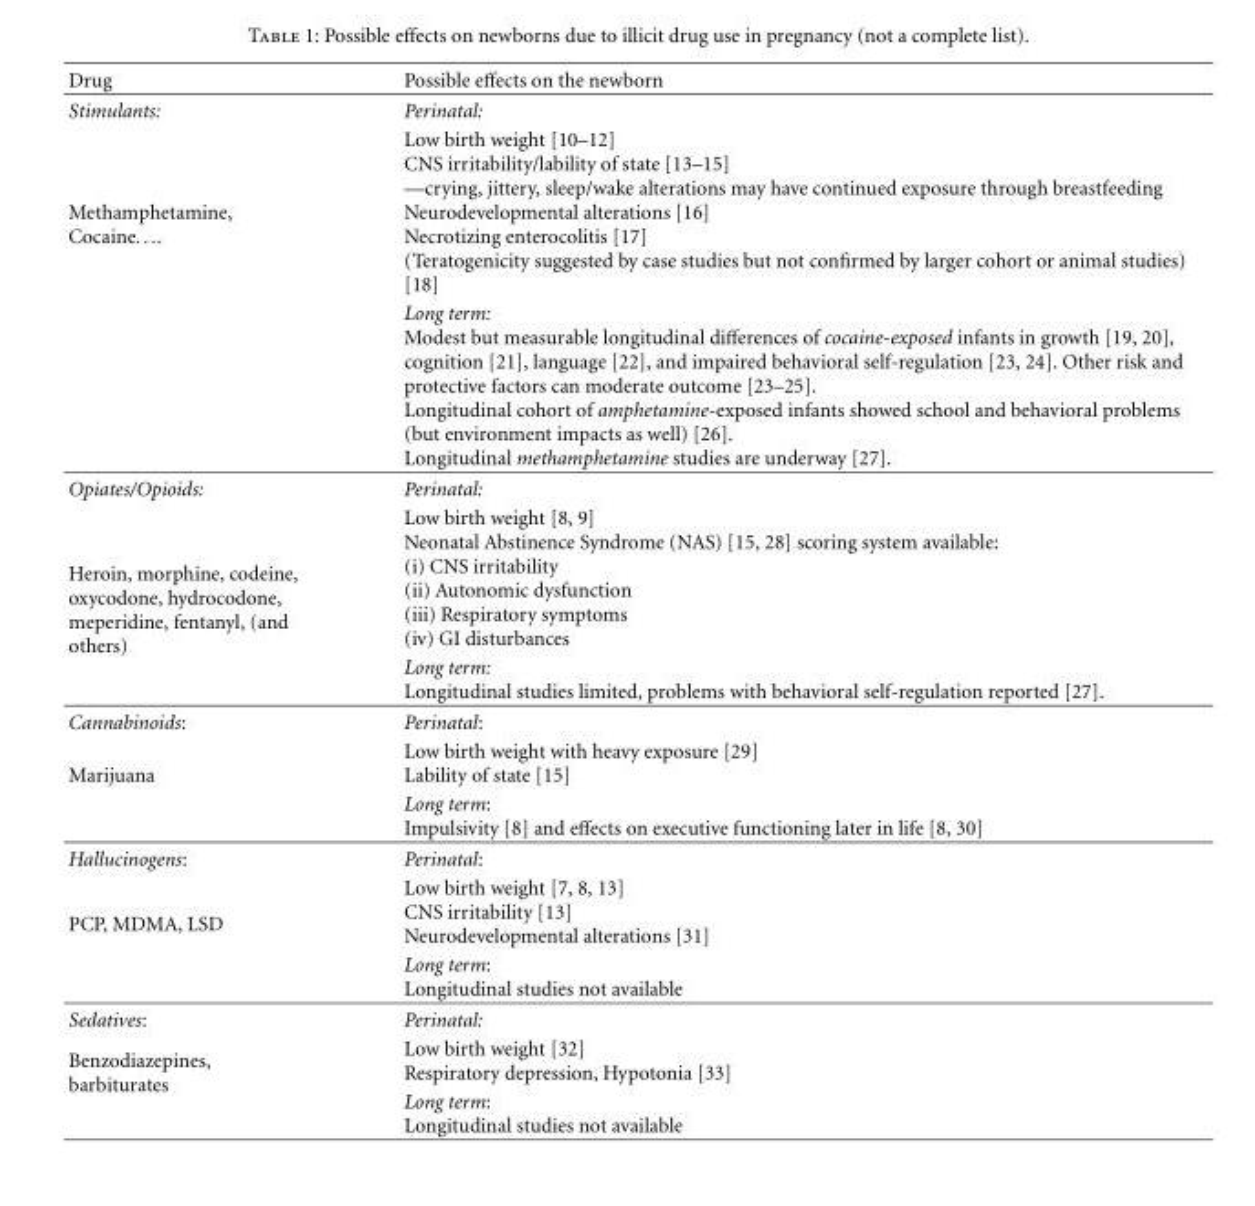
<table><thead><tr><td>Drug</td><td>Possible effects on the newborn</td></tr></thead><tbody><tr><td>Stimulants:</td><td>Perinatal:</td></tr><tr><td rowspan="2">Methamphetamine, Cocaine....</td><td>Low birth weight [10–12] CNS irritability/lability of state [13–15] —crying, jittery, sleep/wake alterations may have continued exposure through breastfeeding Neurodevelopmental alterations [16] Necrotizing enterocolitis [17] (Teratogenicity suggested by case studies but not confirmed by larger cohort or animal studies) [18]</td></tr><tr><td>Long term: Modest but measurable longitudinal differences of cocaine-exposed infants in growth [19, 20], cognition [21], language [22], and impaired behavioral self-regulation [23, 24]. Other risk and protective factors can moderate outcome [23–25]. Longitudinal cohort of amphetamine-exposed infants showed school and behavioral problems (but environment impacts as well) [26]. Longitudinal methamphetamine studies are underway [27].</td></tr><tr><td>Opiates/Opioids:</td><td>Perinatal:</td></tr><tr><td rowspan="2">Heroin, morphine, codeine, oxycodone, hydrocodone, meperidine, fentanyl, (and others)</td><td>Low birth weight [8, 9] Neonatal Abstinence Syndrome (NAS) [15, 28] scoring system available: (i) CNS irritability (ii) Autonomic dysfunction (iii) Respiratory symptoms (iv) GI disturbances</td></tr><tr><td>Long term: Longitudinal studies limited, problems with behavioral self-regulation reported [27].</td></tr><tr><td>Cannabinoids:</td><td>Perinatal:</td></tr><tr><td rowspan="2">Marijuana</td><td>Low birth weight with heavy exposure [29] Lability of state [15]</td></tr><tr><td>Long term: Impulsivity [8] and effects on executive functioning later in life [8, 30]</td></tr><tr><td>Hallucinogens:</td><td>Perinatal:</td></tr><tr><td rowspan="2">PCP, MDMA, LSD</td><td>Low birth weight [7, 8, 13] CNS irritability [13] Neurodevelopmental alterations [31]</td></tr><tr><td>Long term: Longitudinal studies not available</td></tr><tr><td>Sedatives:</td><td>Perinatal:</td></tr><tr><td rowspan="2">Benzodiazepines, barbiturates</td><td>Low birth weight [32] Respiratory depression, Hypotonia [33]</td></tr><tr><td>Long term: Longitudinal studies not available</td></tr></tbody></table>